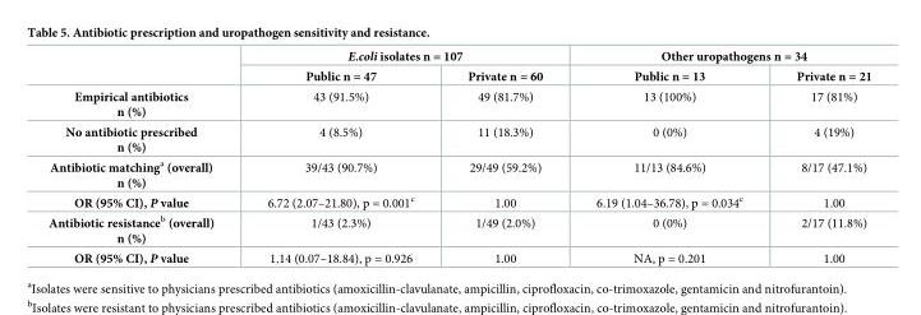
<table><thead><tr><td rowspan="2"></td><td colspan="2">E.coli isolates n = 107</td><td colspan="2">Other uropathogens n = 34</td></tr><tr><td>Public n = 47</td><td>Private n = 60</td><td>Public n = 13</td><td>Private n = 21</td></tr></thead><tbody><tr><td>Empirical antibiotics n (%)</td><td>43 (91.5%)</td><td>49 (81.7%)</td><td>13 (100%)</td><td>17 (81%)</td></tr><tr><td>No antibiotic prescribed n (%)</td><td>4 (8.5%)</td><td>11 (18.3%)</td><td>0 (0%)</td><td>4 (19%)</td></tr><tr><td>Antibiotic matching<sup>a</sup> (overall) n (%)</td><td>39/43 (90.7%)</td><td>29/49 (59.2%)</td><td>11/13 (84.6%)</td><td>8/17 (47.1%)</td></tr><tr><td>OR (95% CI), P value</td><td>6.72 (2.07–21.80), p = 0.001<sup>c</sup></td><td>1.00</td><td>6.19 (1.04–36.78), p = 0.034<sup>c</sup></td><td>1.00</td></tr><tr><td>Antibiotic resistance<sup>b</sup> (overall) n (%)</td><td>1/43 (2.3%)</td><td>1/49 (2.0%)</td><td>0 (0%)</td><td>2/17 (11.8%)</td></tr><tr><td>OR (95% CI), P value</td><td>1.14 (0.07–18.84), p = 0.926</td><td>1.00</td><td>NA, p = 0.201</td><td>1.00</td></tr></tbody></table>